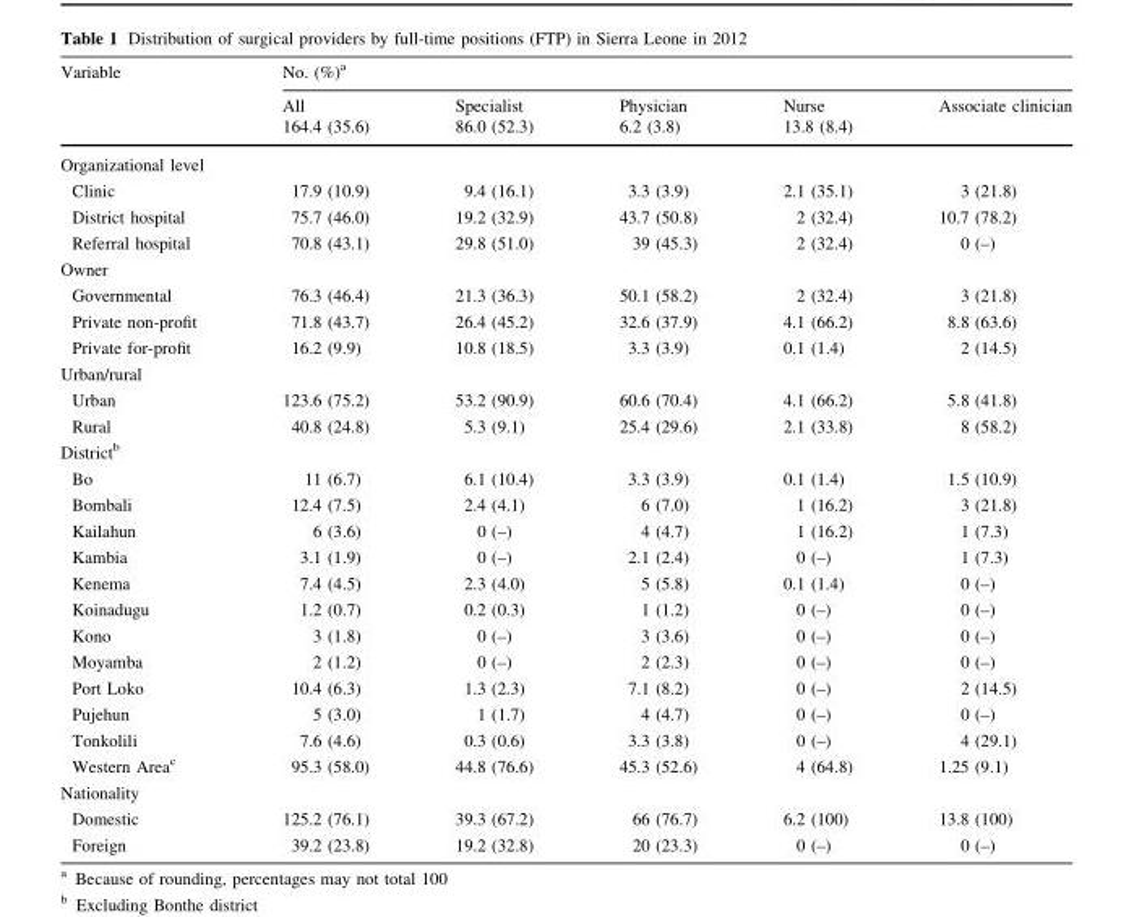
<table><thead><tr><td rowspan="3">Variable</td><td colspan="5">No. (%)<sup>a</sup></td></tr><tr><td rowspan="2">All 164.4 (35.6)</td><td rowspan="2">Specialist 86.0 (52.3)</td><td rowspan="2">Physician 6.2 (3.8)</td><td rowspan="2">Nurse 13.8 (8.4)</td><td rowspan="2">Associate clinician</td></tr><tr></tr></thead><tbody><tr><td colspan="6">Organizational level</td></tr><tr><td>Clinic</td><td>17.9 (10.9)</td><td>9.4 (16.1)</td><td>3.3 (3.9)</td><td>2.1 (35.1)</td><td>3 (21.8)</td></tr><tr><td>District hospital</td><td>75.7 (46.0)</td><td>19.2 (32.9)</td><td>43.7 (50.8)</td><td>2 (32.4)</td><td>10.7 (78.2)</td></tr><tr><td>Referral hospital</td><td>70.8 (43.1)</td><td>29.8 (51.0)</td><td>39 (45.3)</td><td>2 (32.4)</td><td>0 (–)</td></tr><tr><td colspan="6">Owner</td></tr><tr><td>Governmental</td><td>76.3 (46.4)</td><td>21.3 (36.3)</td><td>50.1 (58.2)</td><td>2 (32.4)</td><td>3 (21.8)</td></tr><tr><td>Private non-profit</td><td>71.8 (43.7)</td><td>26.4 (45.2)</td><td>32.6 (37.9)</td><td>4.1 (66.2)</td><td>8.8 (63.6)</td></tr><tr><td>Private for-profit</td><td>16.2 (9.9)</td><td>10.8 (18.5)</td><td>3.3 (3.9)</td><td>0.1 (1.4)</td><td>2 (14.5)</td></tr><tr><td colspan="6">Urban/rural</td></tr><tr><td>Urban</td><td>123.6 (75.2)</td><td>53.2 (90.9)</td><td>60.6 (70.4)</td><td>4.1 (66.2)</td><td>5.8 (41.8)</td></tr><tr><td>Rural</td><td>40.8 (24.8)</td><td>5.3 (9.1)</td><td>25.4 (29.6)</td><td>2.1 (33.8)</td><td>8 (58.2)</td></tr><tr><td colspan="6">District<sup>b</sup></td></tr><tr><td>Bo</td><td>11 (6.7)</td><td>6.1 (10.4)</td><td>3.3 (3.9)</td><td>0.1 (1.4)</td><td>1.5 (10.9)</td></tr><tr><td>Bombali</td><td>12.4 (7.5)</td><td>2.4 (4.1)</td><td>6 (7.0)</td><td>1 (16.2)</td><td>3 (21.8)</td></tr><tr><td>Kailahun</td><td>6 (3.6)</td><td>0 (–)</td><td>4 (4.7)</td><td>1 (16.2)</td><td>1 (7.3)</td></tr><tr><td>Kambia</td><td>3.1 (1.9)</td><td>0 (–)</td><td>2.1 (2.4)</td><td>0 (–)</td><td>1 (7.3)</td></tr><tr><td>Kenema</td><td>7.4 (4.5)</td><td>2.3 (4.0)</td><td>5 (5.8)</td><td>0.1 (1.4)</td><td>0 (–)</td></tr><tr><td>Koinadugu</td><td>1.2 (0.7)</td><td>0.2 (0.3)</td><td>1 (1.2)</td><td>0 (–)</td><td>0 (–)</td></tr><tr><td>Kono</td><td>3 (1.8)</td><td>0 (–)</td><td>3 (3.6)</td><td>0 (–)</td><td>0 (–)</td></tr><tr><td>Moyamba</td><td>2 (1.2)</td><td>0 (–)</td><td>2 (2.3)</td><td>0 (–)</td><td>0 (–)</td></tr><tr><td>Port Loko</td><td>10.4 (6.3)</td><td>1.3 (2.3)</td><td>7.1 (8.2)</td><td>0 (–)</td><td>2 (14.5)</td></tr><tr><td>Pujehun</td><td>5 (3.0)</td><td>1 (1.7)</td><td>4 (4.7)</td><td>0 (–)</td><td>0 (–)</td></tr><tr><td>Tonkolili</td><td>7.6 (4.6)</td><td>0.3 (0.6)</td><td>3.3 (3.8)</td><td>0 (–)</td><td>4 (29.1)</td></tr><tr><td>Western Area<sup>c</sup></td><td>95.3 (58.0)</td><td>44.8 (76.6)</td><td>45.3 (52.6)</td><td>4 (64.8)</td><td>1.25 (9.1)</td></tr><tr><td colspan="6">Nationality</td></tr><tr><td>Domestic</td><td>125.2 (76.1)</td><td>39.3 (67.2)</td><td>66 (76.7)</td><td>6.2 (100)</td><td>13.8 (100)</td></tr><tr><td>Foreign</td><td>39.2 (23.8)</td><td>19.2 (32.8)</td><td>20 (23.3)</td><td>0 (–)</td><td>0 (–)</td></tr></tbody></table>